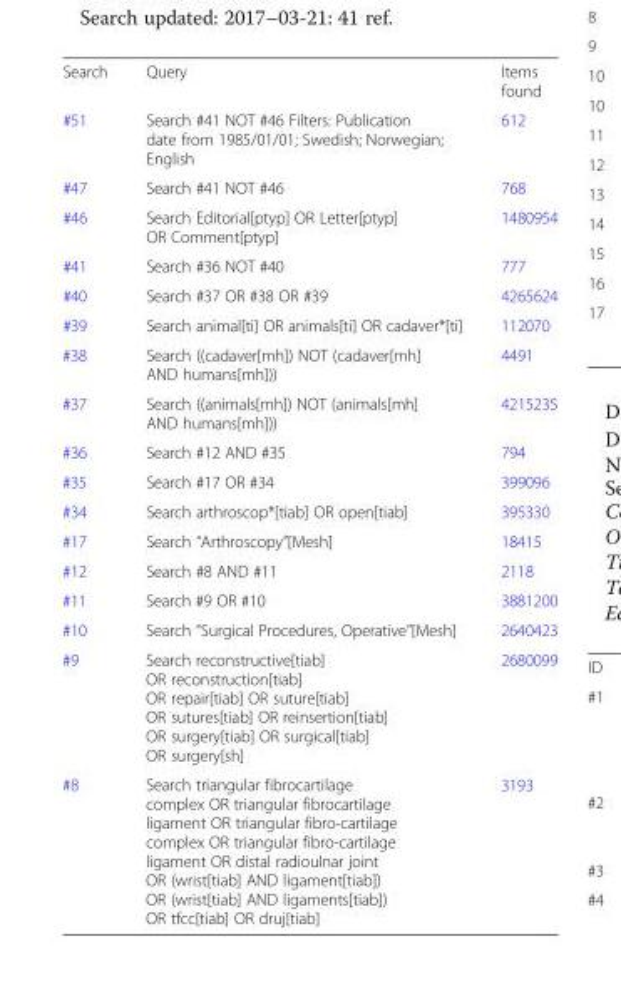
<table><tbody><tr><td>Search</td><td>Query</td><td>Items found</td></tr><tr><td>#51</td><td>Search #41 NOT #46 Filters: Publication date from 1985/01/01; Swedish; Norwegian; English</td><td>612</td></tr><tr><td>#47</td><td>Search #41 NOT #46</td><td>768</td></tr><tr><td>#46</td><td>Search Editorial[ptyp] OR Letter[ptyp] OR Comment[ptyp]</td><td>1480954</td></tr><tr><td>#41</td><td>Search #36 NOT #40</td><td>777</td></tr><tr><td>#40</td><td>Search #37 OR #38 OR #39</td><td>4265624</td></tr><tr><td>#39</td><td>Search animal[ti] OR animals[ti] OR cadaver*[ti]</td><td>112070</td></tr><tr><td>#38</td><td>Search ((cadaver[mh]) NOT (cadaver[mh] AND humans[mh]))</td><td>4491</td></tr><tr><td>#37</td><td>Search ((animals[mh]) NOT (animals[mh] AND humans[mh]))</td><td>4215235</td></tr><tr><td>#36</td><td>Search #12 AND #35</td><td>794</td></tr><tr><td>#35</td><td>Search #17 OR #34</td><td>399096</td></tr><tr><td>#34</td><td>Search arthroscop*[tiab] OR open[tiab]</td><td>395330</td></tr><tr><td>#17</td><td>Search “Arthroscopy”[Mesh]</td><td>18415</td></tr><tr><td>#12</td><td>Search #8 AND #11</td><td>2118</td></tr><tr><td>#11</td><td>Search #9 OR #10</td><td>3881200</td></tr><tr><td>#10</td><td>Search “Surgical Procedures, Operative”[Mesh]</td><td>2640423</td></tr><tr><td>#9</td><td>Search reconstructive[tiab] OR reconstruction[tiab] OR repair[tiab] OR suture[tiab] OR sutures[tiab] OR reinsertion[tiab] OR surgery[tiab] OR surgical[tiab] OR surgery[sh]</td><td>2680099</td></tr><tr><td>#8</td><td>Search triangular fibrocartilage complex OR triangular fibrocartilage ligament OR triangular fibro-cartilage complex OR triangular fibro-cartilage ligament OR distal radioulnar joint OR (wrist[tiab] AND ligament[tiab]) OR (wrist[tiab] AND ligaments[tiab]) OR tfcc[tiab] OR druj[tiab]</td><td>3193</td></tr></tbody></table>